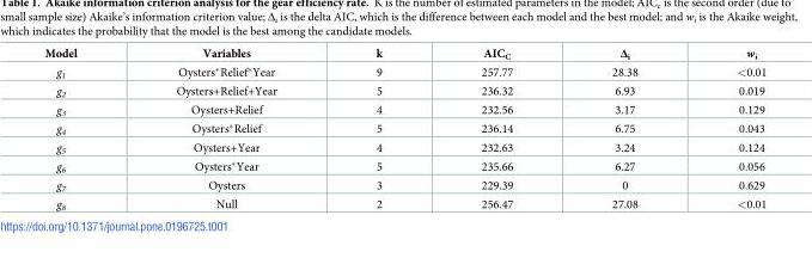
<table><thead><tr><td>Model</td><td>Variables</td><td>k</td><td>AIC<sub>C</sub></td><td>Δ<sub>i</sub></td><td>w<sub>i</sub></td></tr></thead><tbody><tr><td>g<sub>1</sub></td><td>Oysters*Relief*Year</td><td>9</td><td>257.77</td><td>28.38</td><td>&lt;0.01</td></tr><tr><td>g<sub>2</sub></td><td>Oysters+Relief+Year</td><td>5</td><td>236.32</td><td>6.93</td><td>0.019</td></tr><tr><td>g<sub>3</sub></td><td>Oysters+Relief</td><td>4</td><td>232.56</td><td>3.17</td><td>0.129</td></tr><tr><td>g<sub>4</sub></td><td>Oysters*Relief</td><td>5</td><td>236.14</td><td>6.75</td><td>0.043</td></tr><tr><td>g<sub>5</sub></td><td>Oysters+Year</td><td>4</td><td>232.63</td><td>3.24</td><td>0.124</td></tr><tr><td>g<sub>6</sub></td><td>Oysters*Year</td><td>5</td><td>235.66</td><td>6.27</td><td>0.056</td></tr><tr><td>g<sub>7</sub></td><td>Oysters</td><td>3</td><td>229.39</td><td>0</td><td>0.629</td></tr><tr><td>g<sub>8</sub></td><td>Null</td><td>2</td><td>256.47</td><td>27.08</td><td>&lt;0.01</td></tr></tbody></table>